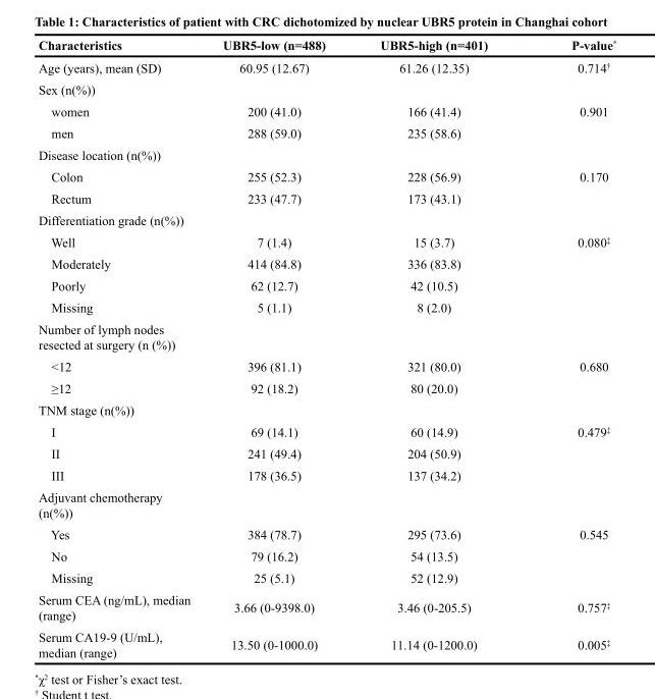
<table><thead><tr><td>Characteristics</td><td>UBR5-low (n=488)</td><td>UBR5-high (n=401)</td><td>P-value*</td></tr></thead><tbody><tr><td>Age (years), mean (SD)</td><td>60.95 (12.67)</td><td>61.26 (12.35)</td><td>0.714<sup>†</sup></td></tr><tr><td colspan="4">Sex (n(%))</td></tr><tr><td>women</td><td>200 (41.0)</td><td>166 (41.4)</td><td>0.901</td></tr><tr><td>men</td><td>288 (59.0)</td><td>235 (58.6)</td><td></td></tr><tr><td colspan="4">Disease location (n(%))</td></tr><tr><td>Colon</td><td>255 (52.3)</td><td>228 (56.9)</td><td>0.170</td></tr><tr><td>Rectum</td><td>233 (47.7)</td><td>173 (43.1)</td><td></td></tr><tr><td colspan="4">Differentiation grade (n(%))</td></tr><tr><td>Well</td><td>7 (1.4)</td><td>15 (3.7)</td><td>0.080<sup>‡</sup></td></tr><tr><td>Moderately</td><td>414 (84.8)</td><td>336 (83.8)</td><td></td></tr><tr><td>Poorly</td><td>62 (12.7)</td><td>42 (10.5)</td><td></td></tr><tr><td>Missing</td><td>5 (1.1)</td><td>8 (2.0)</td><td></td></tr><tr><td colspan="4">Number of lymph nodes resected at surgery (n (%))</td></tr><tr><td>&lt;12</td><td>396 (81.1)</td><td>321 (80.0)</td><td>0.680</td></tr><tr><td>≥12</td><td>92 (18.2)</td><td>80 (20.0)</td><td></td></tr><tr><td colspan="4">TNM stage (n(%))</td></tr><tr><td>I</td><td>69 (14.1)</td><td>60 (14.9)</td><td>0.479<sup>‡</sup></td></tr><tr><td>II</td><td>241 (49.4)</td><td>204 (50.9)</td><td></td></tr><tr><td>III</td><td>178 (36.5)</td><td>137 (34.2)</td><td></td></tr><tr><td colspan="4">Adjuvant chemotherapy (n(%))</td></tr><tr><td>Yes</td><td>384 (78.7)</td><td>295 (73.6)</td><td>0.545</td></tr><tr><td>No</td><td>79 (16.2)</td><td>54 (13.5)</td><td></td></tr><tr><td>Missing</td><td>25 (5.1)</td><td>52 (12.9)</td><td></td></tr><tr><td>Serum CEA (ng/mL), median (range)</td><td>3.66 (0-9398.0)</td><td>3.46 (0-205.5)</td><td>0.757<sup>‡</sup></td></tr><tr><td>Serum CA19-9 (U/mL), median (range)</td><td>13.50 (0-1000.0)</td><td>11.14 (0-1200.0)</td><td>0.005<sup>‡</sup></td></tr></tbody></table>